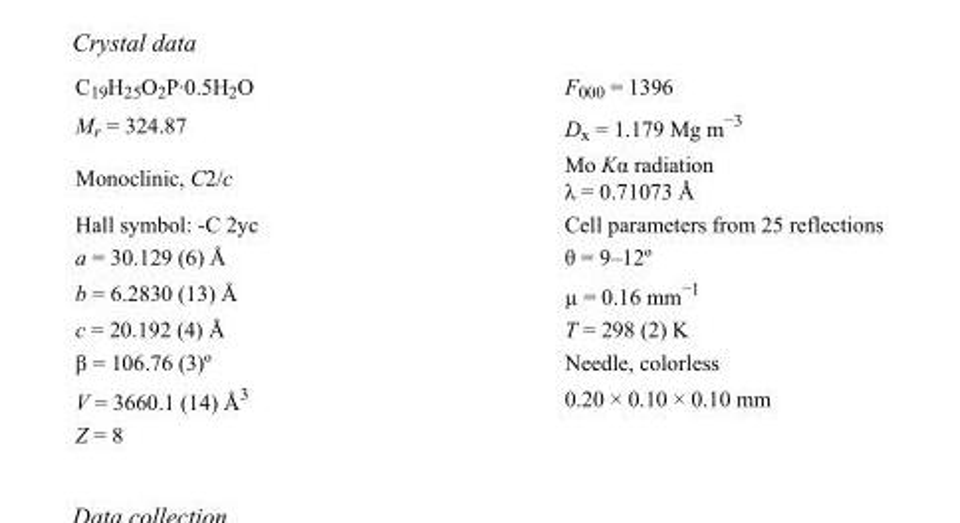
<table><tbody><tr><td>C<sub>19</sub>H<sub>25</sub>O<sub>2</sub>P·0.5H<sub>2</sub>O</td><td>F<sub>000</sub> = 1396</td></tr><tr><td>M<sub>r</sub> = 324.87</td><td>D<sub>x</sub> = 1.179 Mg m<sup>−3</sup></td></tr><tr><td>Monoclinic, C2/c</td><td>Mo Kα radiation λ = 0.71073 Å</td></tr><tr><td>Hall symbol: -C 2yc</td><td>Cell parameters from 25 reflections</td></tr><tr><td>a = 30.129 (6) Å</td><td>θ = 9–12º</td></tr><tr><td>b = 6.2830 (13) Å</td><td>µ = 0.16 mm<sup>−1</sup></td></tr><tr><td>c = 20.192 (4) Å</td><td>T = 298 (2) K</td></tr><tr><td>β = 106.76 (3)º</td><td>Needle, colorless</td></tr><tr><td>V = 3660.1 (14) Å<sup>3</sup></td><td>0.20 × 0.10 × 0.10 mm</td></tr><tr><td>Z = 8</td><td></td></tr></tbody></table>